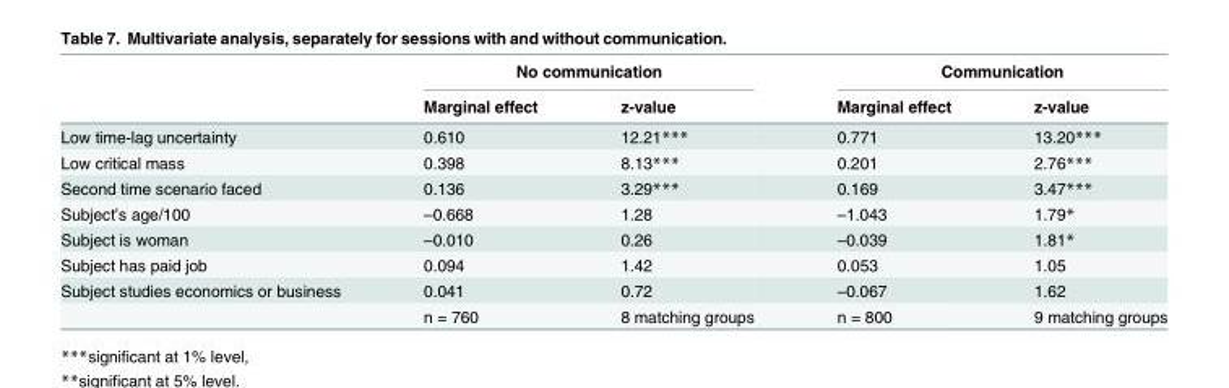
<table><thead><tr><td rowspan="2"></td><td colspan="2">No communication</td><td colspan="2">Communication</td></tr><tr><td>Marginal effect</td><td>z-value</td><td>Marginal effect</td><td>z-value</td></tr></thead><tbody><tr><td>Low time-lag uncertainty</td><td>0.610</td><td>12.21***</td><td>0.771</td><td>13.20***</td></tr><tr><td>Low critical mass</td><td>0.398</td><td>8.13***</td><td>0.201</td><td>2.76***</td></tr><tr><td>Second time scenario faced</td><td>0.136</td><td>3.29***</td><td>0.169</td><td>3.47***</td></tr><tr><td>Subject’s age/100</td><td>–0.668</td><td>1.28</td><td>–1.043</td><td>1.79*</td></tr><tr><td>Subject is woman</td><td>–0.010</td><td>0.26</td><td>–0.039</td><td>1.81*</td></tr><tr><td>Subject has paid job</td><td>0.094</td><td>1.42</td><td>0.053</td><td>1.05</td></tr><tr><td rowspan="2">Subject studies economics or business</td><td>0.041</td><td>0.72</td><td>–0.067</td><td>1.62</td></tr><tr><td>n = 760</td><td>8 matching groups</td><td>n = 800</td><td>9 matching groups</td></tr></tbody></table>